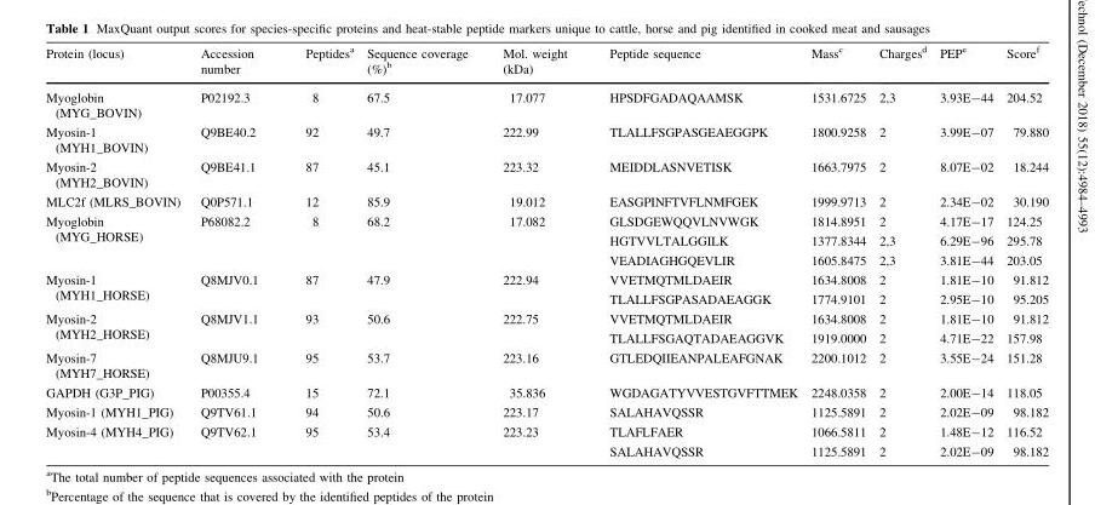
<table><thead><tr><td>Protein (locus)</td><td>Accession number</td><td>Peptides<sup>a</sup></td><td>Sequence coverage (%)<sup>b</sup></td><td>Mol. weight (kDa)</td><td>Peptide sequence</td><td>Mass<sup>c</sup></td><td>Charges<sup>d</sup></td><td>PEP<sup>e</sup></td><td>Score<sup>f</sup></td></tr></thead><tbody><tr><td>Myoglobin (MYG_BOVIN)</td><td>P02192.3</td><td>8</td><td>67.5</td><td>17.077</td><td>HPSDFGADAQAAMSK</td><td>1531.6725</td><td>2,3</td><td>3.93E-44</td><td>204.52</td></tr><tr><td>Myosin-1 (MYH1_BOVIN)</td><td>Q9BE40.2</td><td>92</td><td>49.7</td><td>222.99</td><td>TLALLFSGPASGEAEGGPK</td><td>1800.9258</td><td>2</td><td>3.99E-07</td><td>79.880</td></tr><tr><td>Myosin-2 (MYH2_BOVIN)</td><td>Q9BE41.1</td><td>87</td><td>45.1</td><td>223.32</td><td>MEIDDLASNVETISK</td><td>1663.7975</td><td>2</td><td>8.07E-02</td><td>18.244</td></tr><tr><td>MLC2f (MLRS_BOVIN)</td><td>Q0P571.1</td><td>12</td><td>85.9</td><td>19.012</td><td>EASGPINFTVFLNMFGEK</td><td>1999.9713</td><td>2</td><td>2.34E-02</td><td>30.190</td></tr><tr><td rowspan="3">Myoglobin (MYG_HORSE)</td><td rowspan="3">P68082.2</td><td rowspan="3">8</td><td rowspan="3">68.2</td><td rowspan="3">17.082</td><td>GLSDGEWQQVLNVWGK</td><td>1814.8951</td><td>2</td><td>4.17E-17</td><td>124.25</td></tr><tr><td>HGTVVLTALGGILK</td><td>1377.8344</td><td>2,3</td><td>6.29E-96</td><td>295.78</td></tr><tr><td>VEADIAGHGQEVLIR</td><td>1605.8475</td><td>2,3</td><td>3.81E-44</td><td>203.05</td></tr><tr><td rowspan="2">Myosin-1 (MYH1_HORSE)</td><td rowspan="2">Q8MJV0.1</td><td rowspan="2">87</td><td rowspan="2">47.9</td><td rowspan="2">222.94</td><td>VVETMQTMLDAEIR</td><td>1634.8008</td><td>2</td><td>1.81E-10</td><td>91.812</td></tr><tr><td>TLALLFSGPASADAEAGGK</td><td>1774.9101</td><td>2</td><td>2.95E-10</td><td>95.205</td></tr><tr><td rowspan="2">Myosin-2 (MYH2_HORSE)</td><td rowspan="2">Q8MJV1.1</td><td rowspan="2">93</td><td rowspan="2">50.6</td><td rowspan="2">222.75</td><td>VVETMQTMLDAEIR</td><td>1634.8008</td><td>2</td><td>1.81E-10</td><td>91.812</td></tr><tr><td>TLALLFSGAQTADAEAGGVK</td><td>1919.0000</td><td>2</td><td>4.71E-22</td><td>157.98</td></tr><tr><td>Myosin-7 (MYH7_HORSE)</td><td>Q8MJU9.1</td><td>95</td><td>53.7</td><td>223.16</td><td>GTLEDQIIEANPALEAFGNAK</td><td>2200.1012</td><td>2</td><td>3.55E-24</td><td>151.28</td></tr><tr><td>GAPDH (G3P_PIG)</td><td>P00355.4</td><td>15</td><td>72.1</td><td>35.836</td><td>WGDAGATYVVESTGVFTTMEK</td><td>2248.0358</td><td>2</td><td>2.00E-14</td><td>118.05</td></tr><tr><td>Myosin-1 (MYH1_PIG)</td><td>Q9TV61.1</td><td>94</td><td>50.6</td><td>223.17</td><td>SALAHAVQSSR</td><td>1125.5891</td><td>2</td><td>2.02E-09</td><td>98.182</td></tr><tr><td rowspan="2">Myosin-4 (MYH4_PIG)</td><td rowspan="2">Q9TV62.1</td><td rowspan="2">95</td><td rowspan="2">53.4</td><td rowspan="2">223.23</td><td>TLAFLFAER</td><td>1066.5811</td><td>2</td><td>1.48E-12</td><td>116.52</td></tr><tr><td>SALAHAVQSSR</td><td>1125.5891</td><td>2</td><td>2.02E-09</td><td>98.182</td></tr></tbody></table>